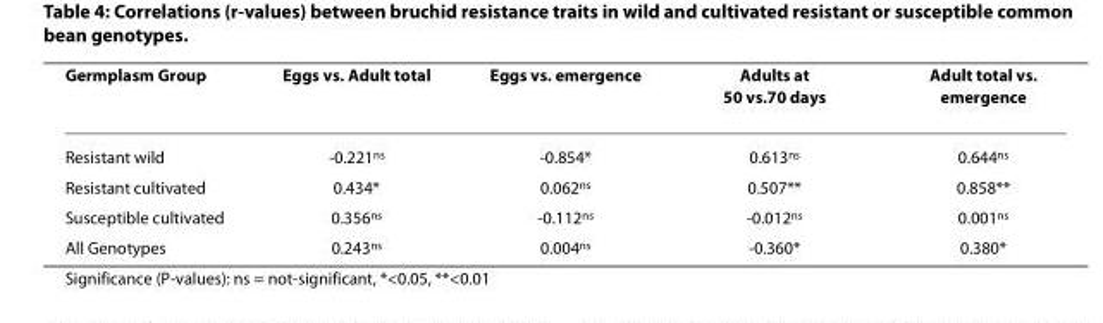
<table><thead><tr><td>Germplasm Group</td><td>Eggs vs. Adult total</td><td>Eggs vs. emergence</td><td>Adults at 50 vs.70 days</td><td>Adult total vs. emergence</td></tr></thead><tbody><tr><td>Resistant wild</td><td>-0.221<sup>ns</sup></td><td>-0.854*</td><td>0.613<sup>ns</sup></td><td>0.644<sup>ns</sup></td></tr><tr><td>Resistant cultivated</td><td>0.434*</td><td>0.062<sup>ns</sup></td><td>0.507**</td><td>0.858**</td></tr><tr><td>Susceptible cultivated</td><td>0.356<sup>ns</sup></td><td>-0.112<sup>ns</sup></td><td>-0.012<sup>ns</sup></td><td>0.001<sup>ns</sup></td></tr><tr><td>All Genotypes</td><td>0.243<sup>ns</sup></td><td>0.004<sup>ns</sup></td><td>-0.360*</td><td>0.380*</td></tr></tbody></table>